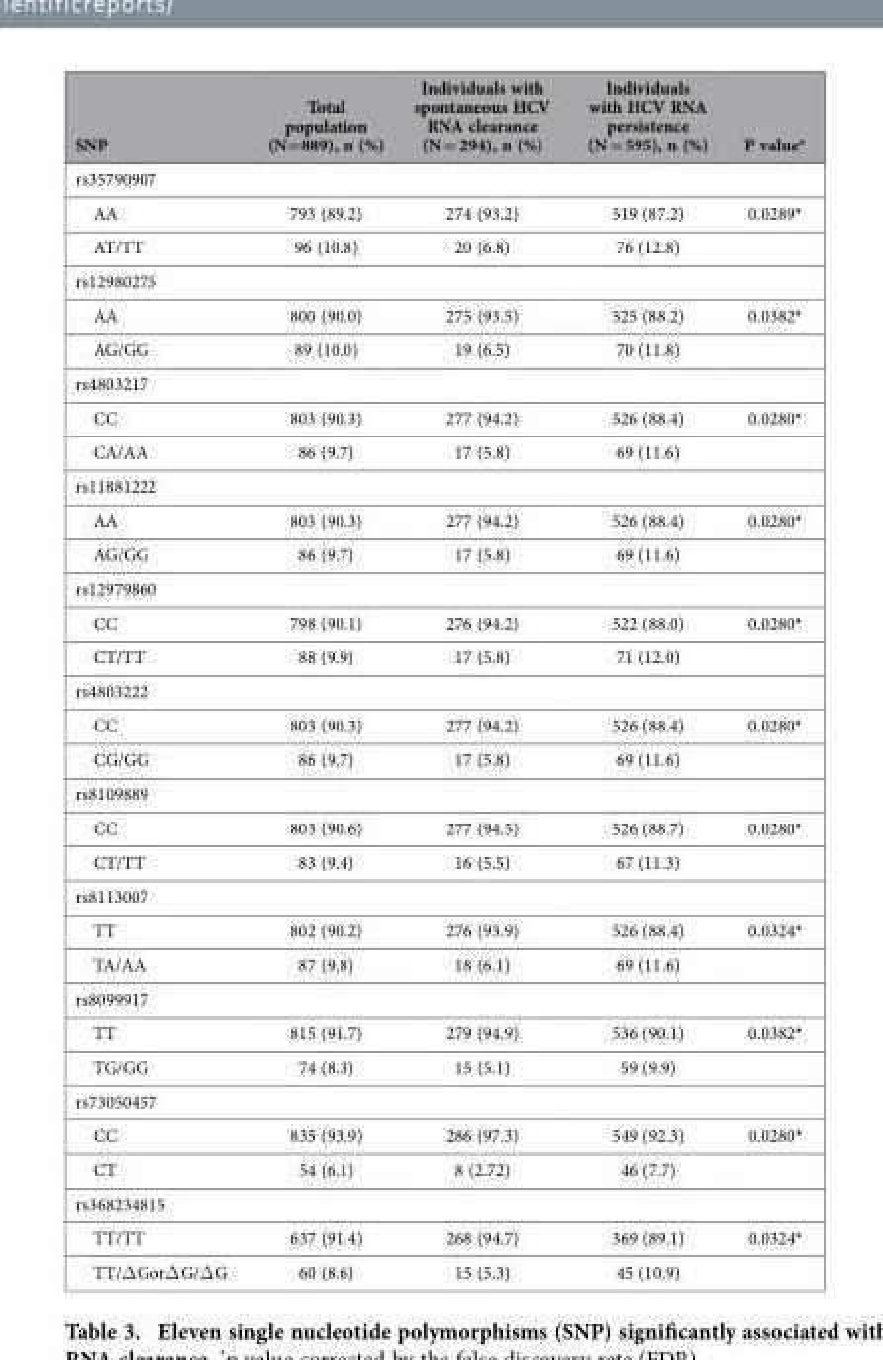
<table><thead><tr><td>SNP</td><td>Total population (N=889), n (%)</td><td>Individuals with spontaneous HCV RNA clearance (N = 294), n (%)</td><td>Individuals with HCV RNA persistence (N = 595), n (%)</td><td>P value*</td></tr></thead><tbody><tr><td colspan="5">rs35790907</td></tr><tr><td>AA</td><td>793 (89.2)</td><td>274 (93.2)</td><td>519 (87.2)</td><td>0.0289*</td></tr><tr><td>AT/TT</td><td>96 (10.8)</td><td>20 (6.8)</td><td>76 (12.8)</td><td></td></tr><tr><td colspan="5">rs12980275</td></tr><tr><td>AA</td><td>800 (90.0)</td><td>275 (93.5)</td><td>525 (88.2)</td><td>0.0382*</td></tr><tr><td>AG/GG</td><td>89 (10.0)</td><td>19 (6.5)</td><td>70 (11.8)</td><td></td></tr><tr><td colspan="5">rs4803217</td></tr><tr><td>CC</td><td>803 (90.3)</td><td>277 (94.2)</td><td>526 (88.4)</td><td>0.0280*</td></tr><tr><td>CA/AA</td><td>86 (9.7)</td><td>17 (5.8)</td><td>69 (11.6)</td><td></td></tr><tr><td colspan="5">rs11881222</td></tr><tr><td>AA</td><td>803 (90.3)</td><td>277 (94.2)</td><td>526 (88.4)</td><td>0.0280*</td></tr><tr><td>AG/GG</td><td>86 (9.7)</td><td>17 (5.8)</td><td>69 (11.6)</td><td></td></tr><tr><td colspan="5">rs12979860</td></tr><tr><td>CC</td><td>798 (90.1)</td><td>276 (94.2)</td><td>522 (88.0)</td><td>0.0280*</td></tr><tr><td>CT/TT</td><td>88 (9.9)</td><td>17 (5.8)</td><td>71 (12.0)</td><td></td></tr><tr><td colspan="5">rs4803222</td></tr><tr><td>CC</td><td>803 (90.3)</td><td>277 (94.2)</td><td>526 (88.4)</td><td>0.0280*</td></tr><tr><td>CG/GG</td><td>86 (9.7)</td><td>17 (5.8)</td><td>69 (11.6)</td><td></td></tr><tr><td colspan="5">rs8109889</td></tr><tr><td>CC</td><td>803 (90.6)</td><td>277 (94.5)</td><td>526 (88.7)</td><td>0.0280*</td></tr><tr><td>CT/TT</td><td>83 (9.4)</td><td>16 (5.5)</td><td>67 (11.3)</td><td></td></tr><tr><td colspan="5">rs8113007</td></tr><tr><td>TT</td><td>802 (90.2)</td><td>276 (93.9)</td><td>526 (88.4)</td><td>0.0324*</td></tr><tr><td>TA/AA</td><td>87 (9.8)</td><td>18 (6.1)</td><td>69 (11.6)</td><td></td></tr><tr><td colspan="5">rs8099917</td></tr><tr><td>TT</td><td>815 (91.7)</td><td>279 (94.9)</td><td>536 (90.1)</td><td>0.0382*</td></tr><tr><td>TG/GG</td><td>74 (8.3)</td><td>15 (5.1)</td><td>59 (9.9)</td><td></td></tr><tr><td colspan="5">rs73050457</td></tr><tr><td>CC</td><td>835 (93.9)</td><td>286 (97.3)</td><td>549 (92.3)</td><td>0.0280*</td></tr><tr><td>CT</td><td>54 (6.1)</td><td>8 (2.72)</td><td>46 (7.7)</td><td></td></tr><tr><td colspan="5">rs368234815</td></tr><tr><td>TT/TT</td><td>637 (91.4)</td><td>268 (94.7)</td><td>369 (89.1)</td><td>0.0324*</td></tr><tr><td>TT/Δ GorΔ G/Δ G</td><td>60 (8.6)</td><td>15 (5.3)</td><td>45 (10.9)</td><td></td></tr></tbody></table>